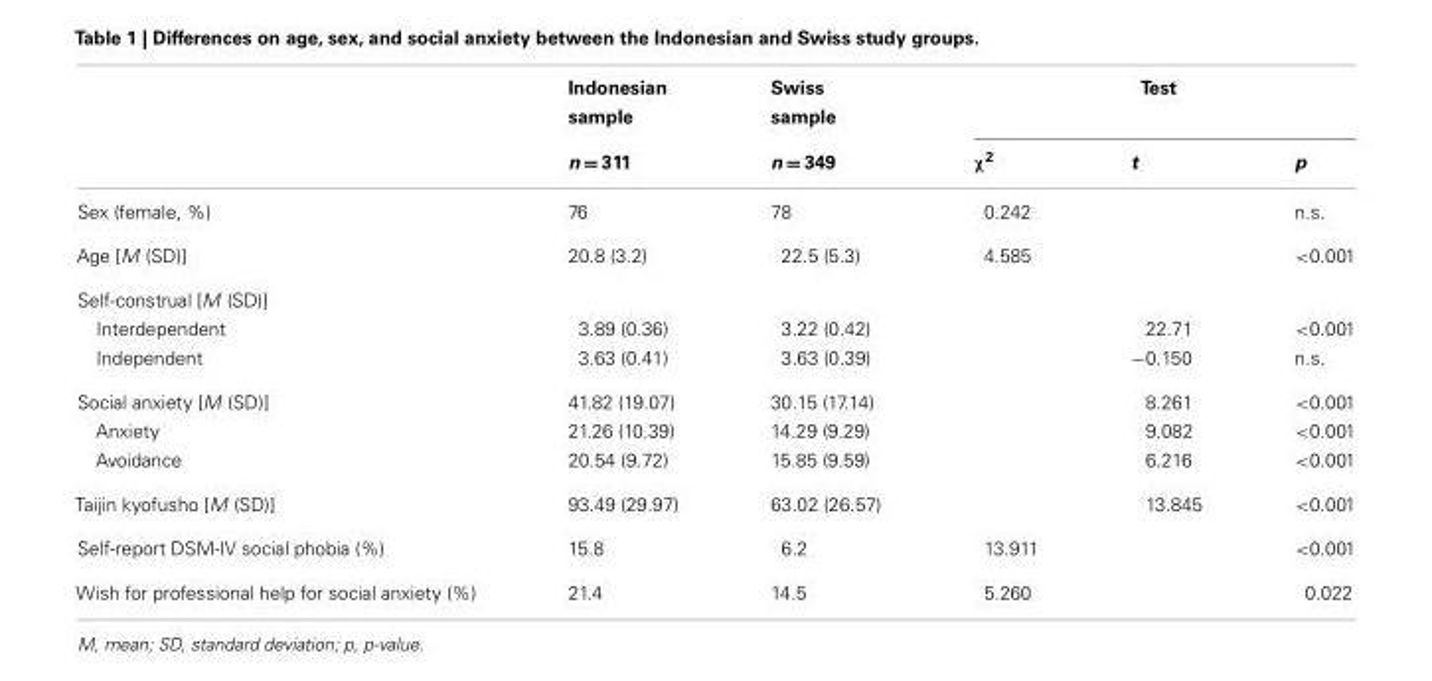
<table><thead><tr><td rowspan="2"></td><td rowspan="2">Indonesian sample n = 311</td><td rowspan="2">Swiss sample n = 349</td><td colspan="3">Test</td></tr><tr><td>χ<sup>2</sup></td><td>t</td><td>p</td></tr></thead><tbody><tr><td>Sex (female, %)</td><td>76</td><td>78</td><td>0.242</td><td></td><td>n.s.</td></tr><tr><td>Age [M (SD)]</td><td>20.8 (3.2)</td><td>22.5 (5.3)</td><td>4.585</td><td></td><td>&lt;0.001</td></tr><tr><td colspan="6">Self-construal [M (SD)]</td></tr><tr><td>Interdependent</td><td>3.89 (0.36)</td><td>3.22 (0.42)</td><td></td><td>22.71</td><td>&lt;0.001</td></tr><tr><td>Independent</td><td>3.63 (0.41)</td><td>3.63 (0.39)</td><td></td><td>−0.150</td><td>n.s.</td></tr><tr><td>Social anxiety [M (SD)]</td><td>41.82 (19.07)</td><td>30.15 (17.14)</td><td></td><td>8.261</td><td>&lt;0.001</td></tr><tr><td>Anxiety</td><td>21.26 (10.39)</td><td>14.29 (9.29)</td><td></td><td>9.082</td><td>&lt;0.001</td></tr><tr><td>Avoidance</td><td>20.54 (9.72)</td><td>15.85 (9.59)</td><td></td><td>6.216</td><td>&lt;0.001</td></tr><tr><td>Taijin kyofusho [M (SD)]</td><td>93.49 (29.97)</td><td>63.02 (26.57)</td><td></td><td>13.845</td><td>&lt;0.001</td></tr><tr><td>Self-report DSM-IV social phobia (%)</td><td>15.8</td><td>6.2</td><td>13.911</td><td></td><td>&lt;0.001</td></tr><tr><td>Wish for professional help for social anxiety (%)</td><td>21.4</td><td>14.5</td><td>5.260</td><td></td><td>0.022</td></tr></tbody></table>